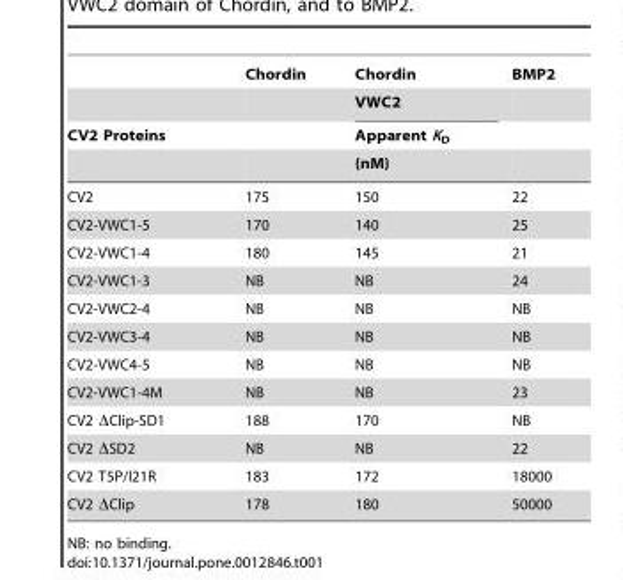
<table><thead><tr><td rowspan="4">CV2 Proteins</td><td rowspan="4">Chordin</td><td rowspan="4">Chordin VWC2 Apparent K<sub>D</sub> (nM)</td><td rowspan="4">BMP2</td></tr><tr></tr><tr></tr><tr></tr></thead><tbody><tr><td>CV2</td><td>175</td><td>150</td><td>22</td></tr><tr><td>CV2-VWC1-5</td><td>170</td><td>140</td><td>25</td></tr><tr><td>CV2-VWC1-4</td><td>180</td><td>145</td><td>21</td></tr><tr><td>CV2-VWC1-3</td><td>NB</td><td>NB</td><td>24</td></tr><tr><td>CV2-VWC2-4</td><td>NB</td><td>NB</td><td>NB</td></tr><tr><td>CV2-VWC3-4</td><td>NB</td><td>NB</td><td>NB</td></tr><tr><td>CV2-VWC4-5</td><td>NB</td><td>NB</td><td>NB</td></tr><tr><td>CV2-VWC1-4M</td><td>NB</td><td>NB</td><td>23</td></tr><tr><td>CV2 ΔClip-SD1</td><td>188</td><td>170</td><td>NB</td></tr><tr><td>CV2 ΔSD2</td><td>NB</td><td>NB</td><td>22</td></tr><tr><td>CV2 T5P/I21R</td><td>183</td><td>172</td><td>18000</td></tr><tr><td>CV2 ΔClip</td><td>178</td><td>180</td><td>50000</td></tr></tbody></table>